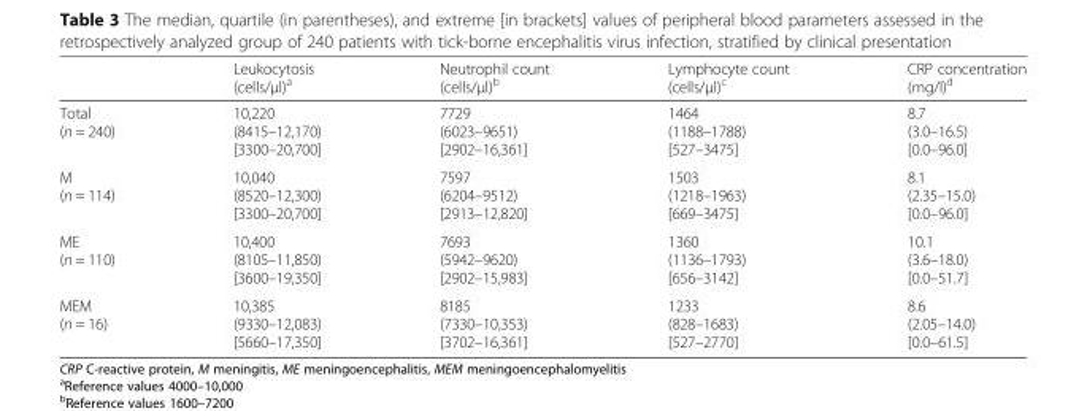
<table><thead><tr><td></td><td>Leukocytosis (cells/μl)<sup>a</sup></td><td>Neutrophil count (cells/μl)<sup>b</sup></td><td>Lymphocyte count (cells/μl)<sup>c</sup></td><td>CRP concentration (mg/l)<sup>d</sup></td></tr></thead><tbody><tr><td>Total (n = 240)</td><td>10,220 (8415–12,170) [3300–20,700]</td><td>7729 (6023–9651) [2902–16,361]</td><td>1464 (1188–1788) [527–3475]</td><td>8.7 (3.0–16.5) [0.0–96.0]</td></tr><tr><td>M (n = 114)</td><td>10,040 (8520–12,300) [3300–20,700]</td><td>7597 (6204–9512) [2913–12,820]</td><td>1503 (1218–1963) [669–3475]</td><td>8.1 (2.35–15.0) [0.0–96.0]</td></tr><tr><td>ME (n = 110)</td><td>10,400 (8105–11,850) [3600–19,350]</td><td>7693 (5942–9620) [2902–15,983]</td><td>1360 (1136–1793) [656–3142]</td><td>10.1 (3.6–18.0) [0.0–51.7]</td></tr><tr><td>MEM (n = 16)</td><td>10,385 (9330–12,083) [5660–17,350]</td><td>8185 (7330–10,353) [3702–16,361]</td><td>1233 (828–1683) [527–2770]</td><td>8.6 (2.05–14.0) [0.0–61.5]</td></tr></tbody></table>